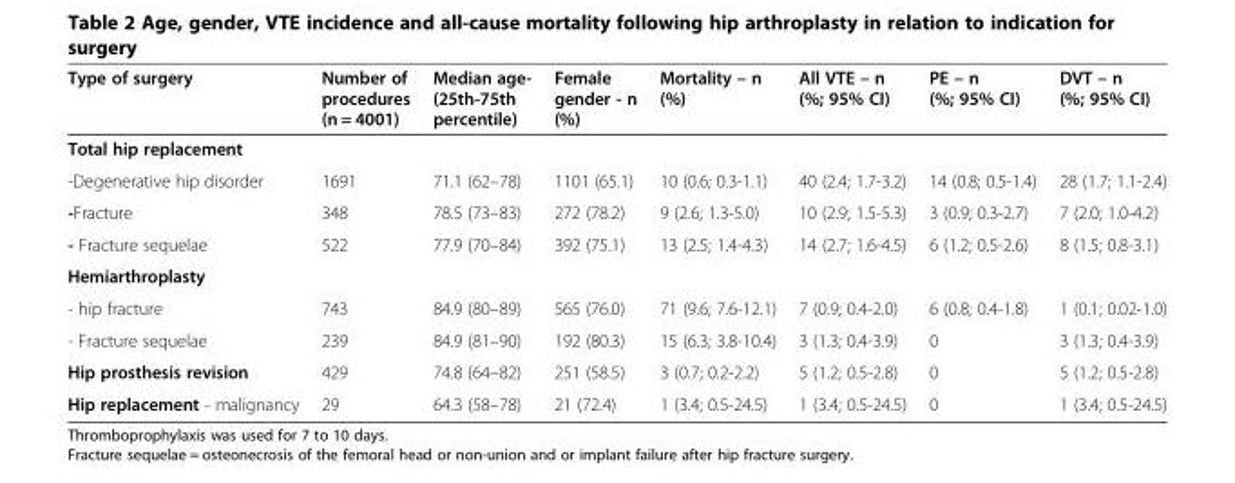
<table><thead><tr><td>Type of surgery</td><td>Number of procedures (n = 4001)</td><td>Median age- (25th-75th percentile)</td><td>Female gender - n (%)</td><td>Mortality – n (%)</td><td>All VTE – n (%; 95% CI)</td><td>PE – n (%; 95% CI)</td><td>DVT – n (%; 95% CI)</td></tr></thead><tbody><tr><td colspan="8">Total hip replacement</td></tr><tr><td>-Degenerative hip disorder</td><td>1691</td><td>71.1 (62–78)</td><td>1101 (65.1)</td><td>10 (0.6; 0.3-1.1)</td><td>40 (2.4; 1.7-3.2)</td><td>14 (0.8; 0.5-1.4)</td><td>28 (1.7; 1.1-2.4)</td></tr><tr><td>-Fracture</td><td>348</td><td>78.5 (73–83)</td><td>272 (78.2)</td><td>9 (2.6; 1.3-5.0)</td><td>10 (2.9; 1.5-5.3)</td><td>3 (0.9; 0.3-2.7)</td><td>7 (2.0; 1.0-4.2)</td></tr><tr><td>- Fracture sequelae</td><td>522</td><td>77.9 (70–84)</td><td>392 (75.1)</td><td>13 (2.5; 1.4-4.3)</td><td>14 (2.7; 1.6-4.5)</td><td>6 (1.2; 0.5-2.6)</td><td>8 (1.5; 0.8-3.1)</td></tr><tr><td colspan="8">Hemiarthroplasty</td></tr><tr><td>- hip fracture</td><td>743</td><td>84.9 (80–89)</td><td>565 (76.0)</td><td>71 (9.6; 7.6-12.1)</td><td>7 (0.9; 0.4-2.0)</td><td>6 (0.8; 0.4-1.8)</td><td>1 (0.1; 0.02-1.0)</td></tr><tr><td>- Fracture sequelae</td><td>239</td><td>84.9 (81–90)</td><td>192 (80.3)</td><td>15 (6.3; 3.8-10.4)</td><td>3 (1.3; 0.4-3.9)</td><td>0</td><td>3 (1.3; 0.4-3.9)</td></tr><tr><td>Hip prosthesis revision</td><td>429</td><td>74.8 (64–82)</td><td>251 (58.5)</td><td>3 (0.7; 0.2-2.2)</td><td>5 (1.2; 0.5-2.8)</td><td>0</td><td>5 (1.2; 0.5-2.8)</td></tr><tr><td>Hip replacement - malignancy</td><td>29</td><td>64.3 (58–78)</td><td>21 (72.4)</td><td>1 (3.4; 0.5-24.5)</td><td>1 (3.4; 0.5-24.5)</td><td>0</td><td>1 (3.4; 0.5-24.5)</td></tr></tbody></table>